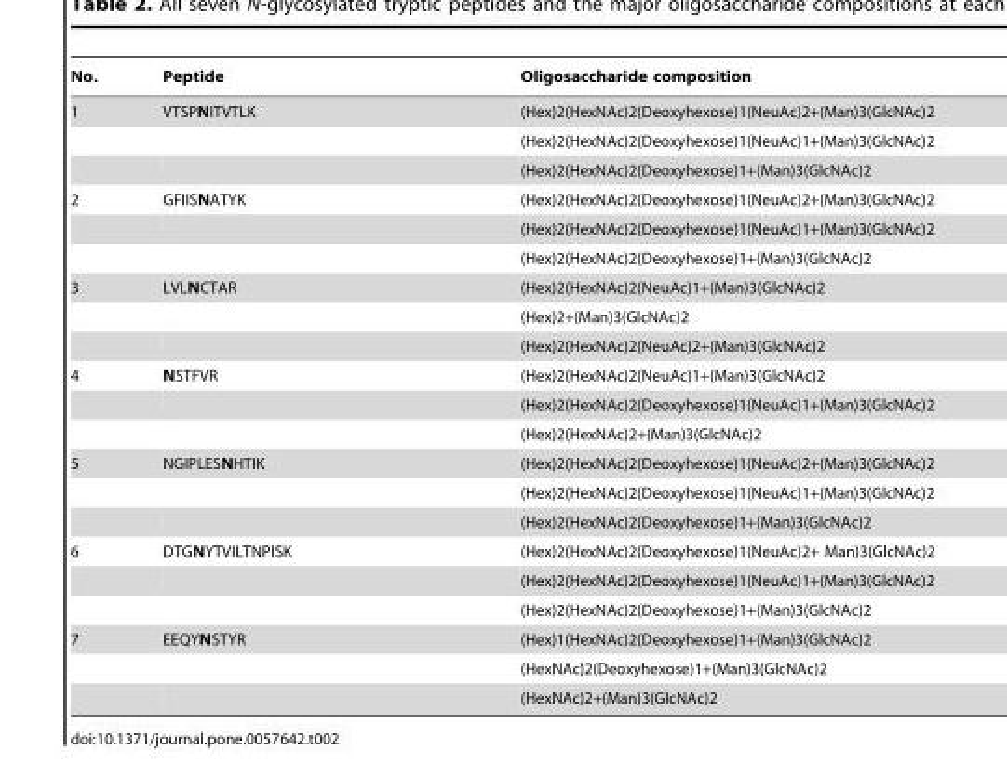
<table><thead><tr><td>No.</td><td>Peptide</td><td>Oligosaccharide composition</td></tr></thead><tbody><tr><td rowspan="3">1</td><td>VTSPNITVTLK</td><td>(Hex)2(HexNAc)2(Deoxyhexose)1(NeuAc)2+(Man)3(GlcNAc)2</td></tr><tr><td></td><td>(Hex)2(HexNAc)2(Deoxyhexose)1(NeuAc)1+(Man)3(GlcNAc)2</td></tr><tr><td></td><td>(Hex)2(HexNAc)2(Deoxyhexose)1+(Man)3(GlcNAc)2</td></tr><tr><td rowspan="3">2</td><td>GFIISNATYK</td><td>(Hex)2(HexNAc)2(Deoxyhexose)1(NeuAc)2+(Man)3(GlcNAc)2</td></tr><tr><td></td><td>(Hex)2(HexNAc)2(Deoxyhexose)1(NeuAc)1+(Man)3(GlcNAc)2</td></tr><tr><td></td><td>(Hex)2(HexNAc)2(Deoxyhexose)1+(Man)3(GlcNAc)2</td></tr><tr><td rowspan="3">3</td><td>LVLNCTAR</td><td>(Hex)2(HexNAc)2(NeuAc)1+(Man)3(GlcNAc)2</td></tr><tr><td></td><td>(Hex)2+(Man)3(GlcNAc)2</td></tr><tr><td></td><td>(Hex)2(HexNAc)2(NeuAc)2+(Man)3(GlcNAc)2</td></tr><tr><td rowspan="3">4</td><td>NSTFVR</td><td>(Hex)2(HexNAc)2(NeuAc)1+(Man)3(GlcNAc)2</td></tr><tr><td></td><td>(Hex)2(HexNAc)2(Deoxyhexose)1(NeuAc)1+(Man)3(GlcNAc)2</td></tr><tr><td></td><td>(Hex)2(HexNAc)2+(Man)3(GlcNAc)2</td></tr><tr><td rowspan="3">5</td><td>NGIPLESNHTIK</td><td>(Hex)2(HexNAc)2(Deoxyhexose)1(NeuAc)2+(Man)3(GlcNAc)2</td></tr><tr><td></td><td>(Hex)2(HexNAc)2(Deoxyhexose)1(NeuAc)1+(Man)3(GlcNAc)2</td></tr><tr><td></td><td>(Hex)2(HexNAc)2(Deoxyhexose)1+(Man)3(GlcNAc)2</td></tr><tr><td rowspan="3">6</td><td>DTGNYTVILTNPISK</td><td>(Hex)2(HexNAc)2(Deoxyhexose)1(NeuAc)2+ Man)3(GlcNAc)2</td></tr><tr><td></td><td>(Hex)2(HexNAc)2(Deoxyhexose)1(NeuAc)1+(Man)3(GlcNAc)2</td></tr><tr><td></td><td>(Hex)2(HexNAc)2(Deoxyhexose)1+(Man)3(GlcNAc)2</td></tr><tr><td rowspan="3">7</td><td>EEQYNSTYR</td><td>(Hex)1(HexNAc)2(Deoxyhexose)1+(Man)3(GlcNAc)2</td></tr><tr><td></td><td>(HexNAc)2(Deoxyhexose)1+(Man)3(GlcNAc)2</td></tr><tr><td></td><td>(HexNAc)2+(Man)3(GlcNAc)2</td></tr></tbody></table>